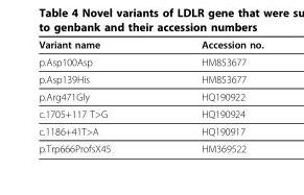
<table><thead><tr><td>Variant name</td><td>Accession no.</td></tr></thead><tbody><tr><td>p.Asp100Asp</td><td>HM853677</td></tr><tr><td>p.Asp139His</td><td>HM853677</td></tr><tr><td>p.Arg471Gly</td><td>HQ190922</td></tr><tr><td>c.1705+117 T&gt;G</td><td>HQ190924</td></tr><tr><td>c.1186+41T&gt;A</td><td>HQ190917</td></tr><tr><td>p.Trp666ProfsX45</td><td>HM369522</td></tr></tbody></table>